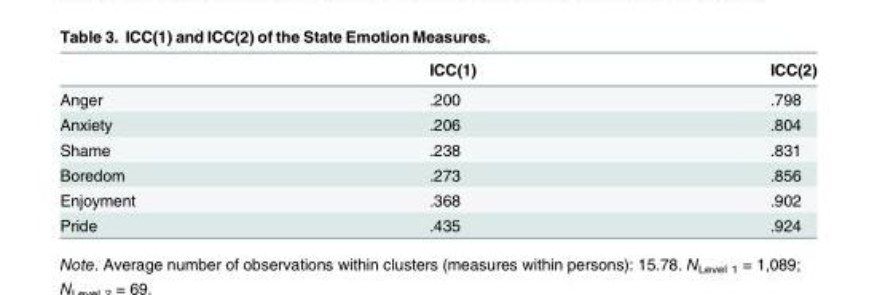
<table><thead><tr><td></td><td>ICC(1)</td><td>ICC(2)</td></tr></thead><tbody><tr><td>Anger</td><td>.200</td><td>.798</td></tr><tr><td>Anxiety</td><td>.206</td><td>.804</td></tr><tr><td>Shame</td><td>.238</td><td>.831</td></tr><tr><td>Boredom</td><td>.273</td><td>.856</td></tr><tr><td>Enjoyment</td><td>.368</td><td>.902</td></tr><tr><td>Pride</td><td>.435</td><td>.924</td></tr></tbody></table>